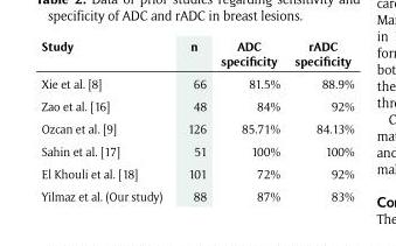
<table><thead><tr><td>Study</td><td>n</td><td>ADC specificity</td><td>rADC specificity</td></tr></thead><tbody><tr><td>Xie et al. [8]</td><td>66</td><td>81.5%</td><td>88.9%</td></tr><tr><td>Zao et al. [16]</td><td>48</td><td>84%</td><td>92%</td></tr><tr><td>Ozcan et al. [9]</td><td>126</td><td>85.71%</td><td>84.13%</td></tr><tr><td>Sahin et al. [17]</td><td>51</td><td>100%</td><td>100%</td></tr><tr><td>El Khouli et al. [18]</td><td>101</td><td>72%</td><td>92%</td></tr><tr><td>Yilmaz et al. (Our study)</td><td>88</td><td>87%</td><td>83%</td></tr></tbody></table>